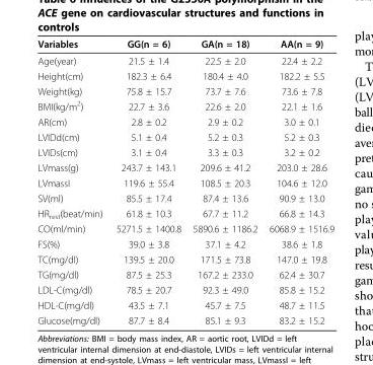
<table><thead><tr><td>Variables</td><td>GG(n = 6)</td><td>GA(n = 18)</td><td>AA(n = 9)</td></tr></thead><tbody><tr><td>Age(year)</td><td>21.5 ± 1.4</td><td>22.5 ± 2.0</td><td>22.4 ± 2.2</td></tr><tr><td>Height(cm)</td><td>182.3 ± 6.4</td><td>180.4 ± 4.0</td><td>182.2 ± 5.5</td></tr><tr><td>Weight(kg)</td><td>75.8 ± 15.7</td><td>73.7 ± 7.6</td><td>73.6 ± 7.8</td></tr><tr><td>BMI(kg/m<sup>2</sup>)</td><td>22.7 ± 3.6</td><td>22.6 ± 2.0</td><td>22.1 ± 1.6</td></tr><tr><td>AR(cm)</td><td>2.8 ± 0.2</td><td>2.9 ± 0.2</td><td>3.0 ± 0.1</td></tr><tr><td>LVIDd(cm)</td><td>5.1 ± 0.4</td><td>5.2 ± 0.3</td><td>5.2 ± 0.3</td></tr><tr><td>LVIDs(cm)</td><td>3.1 ± 0.4</td><td>3.3 ± 0.3</td><td>3.2 ± 0.2</td></tr><tr><td>LVmass(g)</td><td>243.7 ± 143.1</td><td>209.6 ± 41.2</td><td>203.0 ± 28.6</td></tr><tr><td>LVmassI</td><td>119.6 ± 55.4</td><td>108.5 ± 20.3</td><td>104.6 ± 12.0</td></tr><tr><td>SV(ml)</td><td>85.5 ± 17.4</td><td>87.4 ± 13.6</td><td>90.9 ± 13.0</td></tr><tr><td>HR<sub>rest</sub>(beat/min)</td><td>61.8 ± 10.3</td><td>67.7 ± 11.2</td><td>66.8 ± 14.3</td></tr><tr><td>CO(ml/min)</td><td>5271.5 ± 1400.8</td><td>5890.6 ± 1186.2</td><td>6068.9 ± 1516.9</td></tr><tr><td>FS(%)</td><td>39.0 ± 3.8</td><td>37.1 ± 4.2</td><td>38.6 ± 1.8</td></tr><tr><td>TC(mg/dl)</td><td>139.5 ± 20.0</td><td>171.5 ± 73.8</td><td>147.0 ± 19.8</td></tr><tr><td>TG(mg/dl)</td><td>87.5 ± 25.3</td><td>167.2 ± 233.0</td><td>62.4 ± 30.7</td></tr><tr><td>LDL-C(mg/dl)</td><td>78.5 ± 20.7</td><td>92.3 ± 49.0</td><td>85.8 ± 15.2</td></tr><tr><td>HDL-C(mg/dl)</td><td>43.5 ± 7.1</td><td>45.7 ± 7.5</td><td>48.7 ± 11.5</td></tr><tr><td>Glucose(mg/dl)</td><td>87.7 ± 8.4</td><td>85.1 ± 9.3</td><td>83.2 ± 15.2</td></tr></tbody></table>